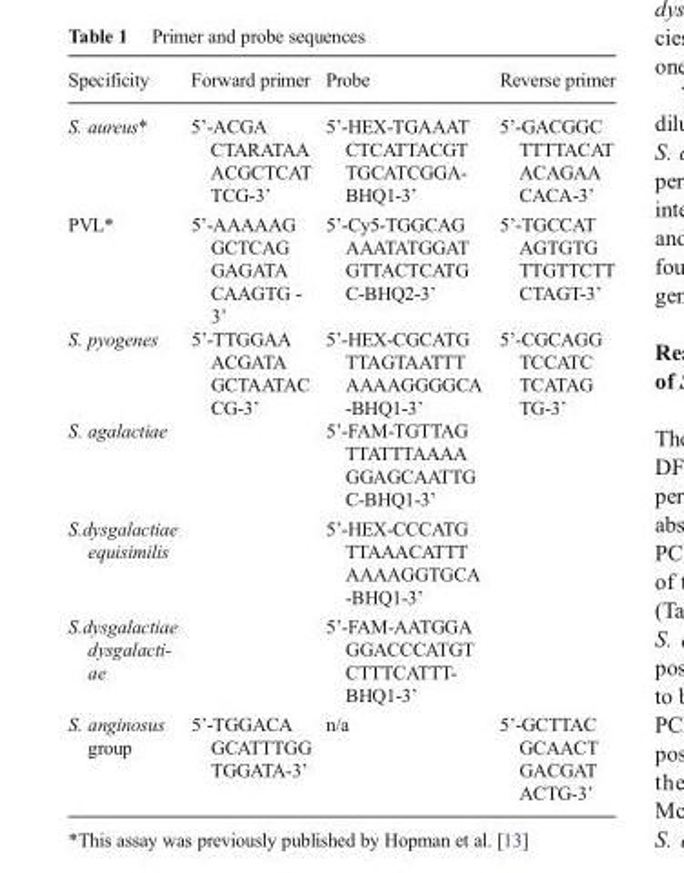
<table><thead><tr><td>Specificity</td><td>Forward primer</td><td>Probe</td><td>Reverse primer</td></tr></thead><tbody><tr><td>S. aureus*</td><td>5’-ACGA CTARATAA ACGCTCAT TCG-3’</td><td>5’-HEX-TGAAAT CTCATTACGT TGCATCGGA- BHQ1-3’</td><td>5’-GACGGC TTTTACAT ACAGAA CACA-3’</td></tr><tr><td>PVL*</td><td>5’-AAAAAG GCTCAG GAGATA CAAGTG - 3’</td><td>5’-Cy5-TGGCAG AAATATGGAT GTTACTCATG C-BHQ2-3’</td><td>5’-TGCCAT AGTGTG TTGTTCTT CTAGT-3’</td></tr><tr><td>S. pyogenes</td><td rowspan="4">5’-TTGGAA ACGATA GCTAATAC CG-3’</td><td>5’-HEX-CGCATG TTAGTAATTT AAAAGGGGCA -BHQ1-3’</td><td rowspan="4">5’-CGCAGG TCCATC TCATAG TG-3’</td></tr><tr><td>S. agalactiae</td><td>5’-FAM-TGTTAG TTATTTAAAA GGAGCAATTG C-BHQ1-3’</td></tr><tr><td>S.dysgalactiae equisimilis</td><td>5’-HEX-CCCATG TTAAACATTT AAAAGGTGCA -BHQ1-3’</td></tr><tr><td>S.dysgalactiae dysgalacti- ae</td><td>5’-FAM-AATGGA GGACCCATGT CTTTCATTT- BHQ1-3’</td></tr><tr><td>S. anginosus group</td><td>5’-TGGACA GCATTTGG TGGATA-3’</td><td>n/a</td><td>5’-GCTTAC GCAACT GACGAT ACTG-3’</td></tr></tbody></table>